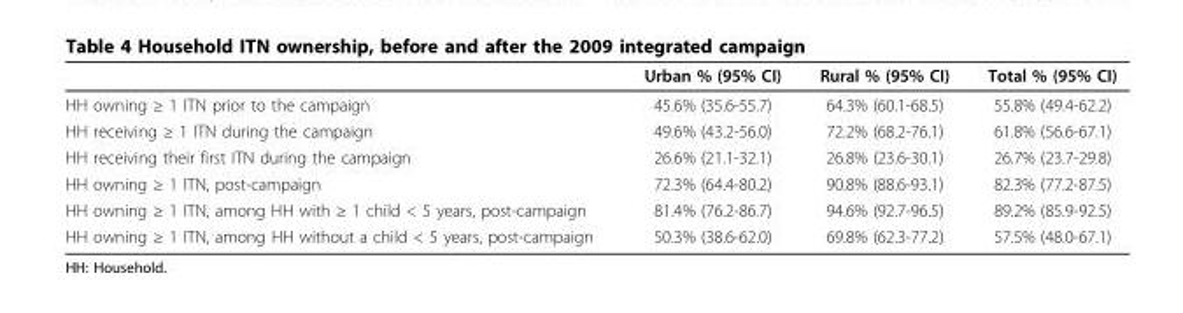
<table><thead><tr><td></td><td>Urban % (95% CI)</td><td>Rural % (95% CI)</td><td>Total % (95% CI)</td></tr></thead><tbody><tr><td>HH owning ≥ 1 ITN prior to the campaign</td><td>45.6% (35.6-55.7)</td><td>64.3% (60.1-68.5)</td><td>55.8% (49.4-62.2)</td></tr><tr><td>HH receiving ≥ 1 ITN during the campaign</td><td>49.6% (43.2-56.0)</td><td>72.2% (68.2-76.1)</td><td>61.8% (56.6-67.1)</td></tr><tr><td>HH receiving their first ITN during the campaign</td><td>26.6% (21.1-32.1)</td><td>26.8% (23.6-30.1)</td><td>26.7% (23.7-29.8)</td></tr><tr><td>HH owning ≥ 1 ITN, post-campaign</td><td>72.3% (64.4-80.2)</td><td>90.8% (88.6-93.1)</td><td>82.3% (77.2-87.5)</td></tr><tr><td>HH owning ≥ 1 ITN, among HH with ≥ 1 child &lt; 5 years, post-campaign</td><td>81.4% (76.2-86.7)</td><td>94.6% (92.7-96.5)</td><td>89.2% (85.9-92.5)</td></tr><tr><td>HH owning ≥ 1 ITN, among HH without a child &lt; 5 years, post-campaign</td><td>50.3% (38.6-62.0)</td><td>69.8% (62.3-77.2)</td><td>57.5% (48.0-67.1)</td></tr></tbody></table>